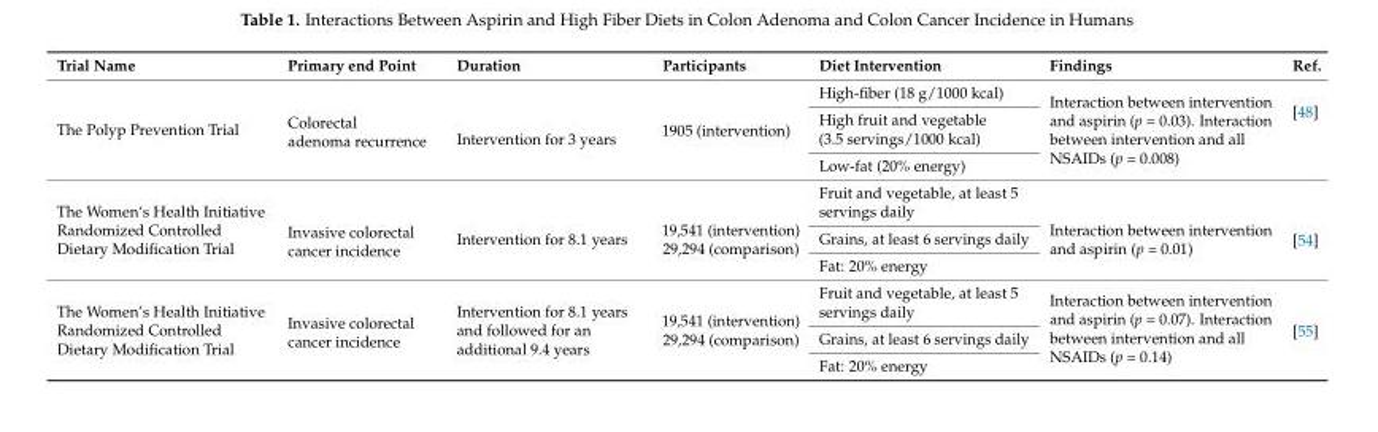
<table><thead><tr><td>Trial Name</td><td>Primary end Point</td><td>Duration</td><td>Participants</td><td>Diet Intervention</td><td>Findings</td><td>Ref.</td></tr></thead><tbody><tr><td rowspan="3">The Polyp Prevention Trial</td><td rowspan="3">Colorectal adenoma recurrence</td><td rowspan="3">Intervention for 3 years</td><td rowspan="3">1905 (intervention)</td><td>High-fiber (18 g/1000 kcal)</td><td rowspan="3">Interaction between intervention and aspirin (p = 0.03). Interaction between intervention and all NSAIDs (p = 0.008)</td><td rowspan="3">[48]</td></tr><tr><td>High fruit and vegetable (3.5 servings/1000 kcal)</td></tr><tr><td>Low-fat (20% energy)</td></tr><tr><td rowspan="3">The Women‘s Health Initiative Randomized Controlled Dietary Modification Trial</td><td rowspan="3">Invasive colorectal cancer incidence</td><td rowspan="3">Intervention for 8.1 years</td><td rowspan="3">19,541 (intervention) 29,294 (comparison)</td><td>Fruit and vegetable, at least 5 servings daily</td><td rowspan="3">Interaction between intervention and aspirin (p = 0.01)</td><td rowspan="3">[54]</td></tr><tr><td>Grains, at least 6 servings daily</td></tr><tr><td>Fat: 20% energy</td></tr><tr><td rowspan="3">The Women’s Health Initiative Randomized Controlled Dietary Modification Trial</td><td rowspan="3">Invasive colorectal cancer incidence</td><td rowspan="3">Intervention for 8.1 years and followed for an additional 9.4 years</td><td rowspan="3">19,541 (intervention) 29,294 (comparison)</td><td>Fruit and vegetable, at least 5 servings daily</td><td rowspan="3">Interaction between intervention and aspirin (p = 0.07). Interaction between intervention and all NSAIDs (p = 0.14)</td><td rowspan="3">[55]</td></tr><tr><td>Grains, at least 6 servings daily</td></tr><tr><td>Fat: 20% energy</td></tr></tbody></table>